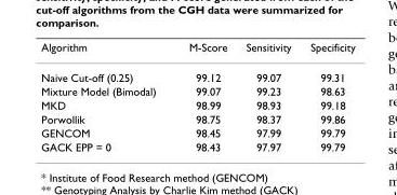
<table><thead><tr><td>Algorithm</td><td>M-Score</td><td>Sensitivity</td><td>Specificity</td></tr></thead><tbody><tr><td>Naive Cut-off (0.25)</td><td>99.12</td><td>99.07</td><td>99.31</td></tr><tr><td>Mixture Model (Bimodal)</td><td>99.07</td><td>99.23</td><td>98.63</td></tr><tr><td>MKD</td><td>98.99</td><td>98.93</td><td>99.18</td></tr><tr><td>Porwollik</td><td>98.75</td><td>98.37</td><td>99.86</td></tr><tr><td>GENCOM</td><td>98.45</td><td>97.99</td><td>99.79</td></tr><tr><td>GACK EPP = 0</td><td>98.43</td><td>97.97</td><td>99.79</td></tr></tbody></table>